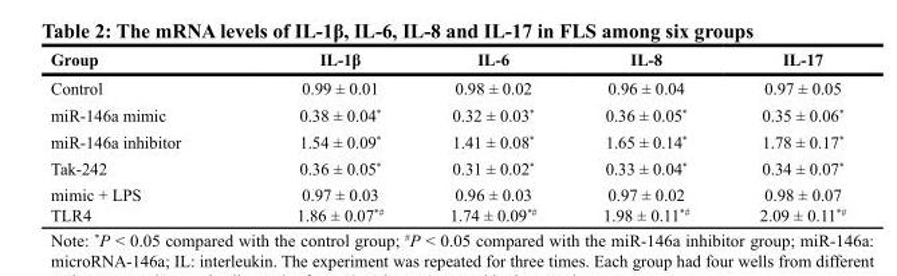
<table><thead><tr><td>Group</td><td>IL-1β</td><td>IL-6</td><td>IL-8</td><td>IL-17</td></tr></thead><tbody><tr><td>Control</td><td>0.99 ± 0.01</td><td>0.98 ± 0.02</td><td>0.96 ± 0.04</td><td>0.97 ± 0.05</td></tr><tr><td>miR-146a mimic</td><td>0.38 ± 0.04*</td><td>0.32 ± 0.03*</td><td>0.36 ± 0.05*</td><td>0.35 ± 0.06*</td></tr><tr><td>miR-146a inhibitor</td><td>1.54 ± 0.09*</td><td>1.41 ± 0.08*</td><td>1.65 ± 0.14*</td><td>1.78 ± 0.17*</td></tr><tr><td>Tak-242</td><td>0.36 ± 0.05*</td><td>0.31 ± 0.02*</td><td>0.33 ± 0.04*</td><td>0.34 ± 0.07*</td></tr><tr><td>mimic + LPS TLR4</td><td>0.97 ± 0.03 1.86 ± 0.07<sup>*#</sup></td><td>0.96 ± 0.03 1.74 ± 0.09<sup>*#</sup></td><td>0.97 ± 0.02 1.98 ± 0.11<sup>*#</sup></td><td>0.98 ± 0.07 2.09 ± 0.11<sup>*#</sup></td></tr></tbody></table>